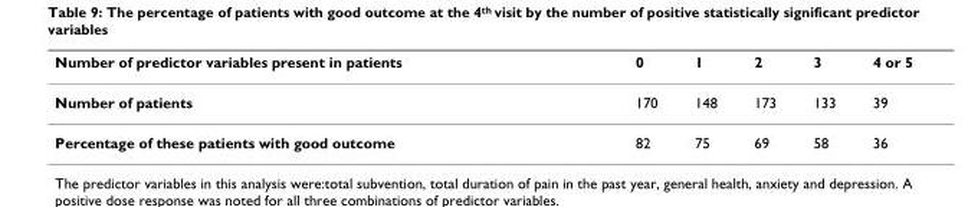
<table><thead><tr><td>Number of predictor variables present in patients</td><td>0</td><td>1</td><td>2</td><td>3</td><td>4 or 5</td></tr></thead><tbody><tr><td>Number of patients</td><td>170</td><td>148</td><td>173</td><td>133</td><td>39</td></tr><tr><td>Percentage of these patients with good outcome</td><td>82</td><td>75</td><td>69</td><td>58</td><td>36</td></tr></tbody></table>